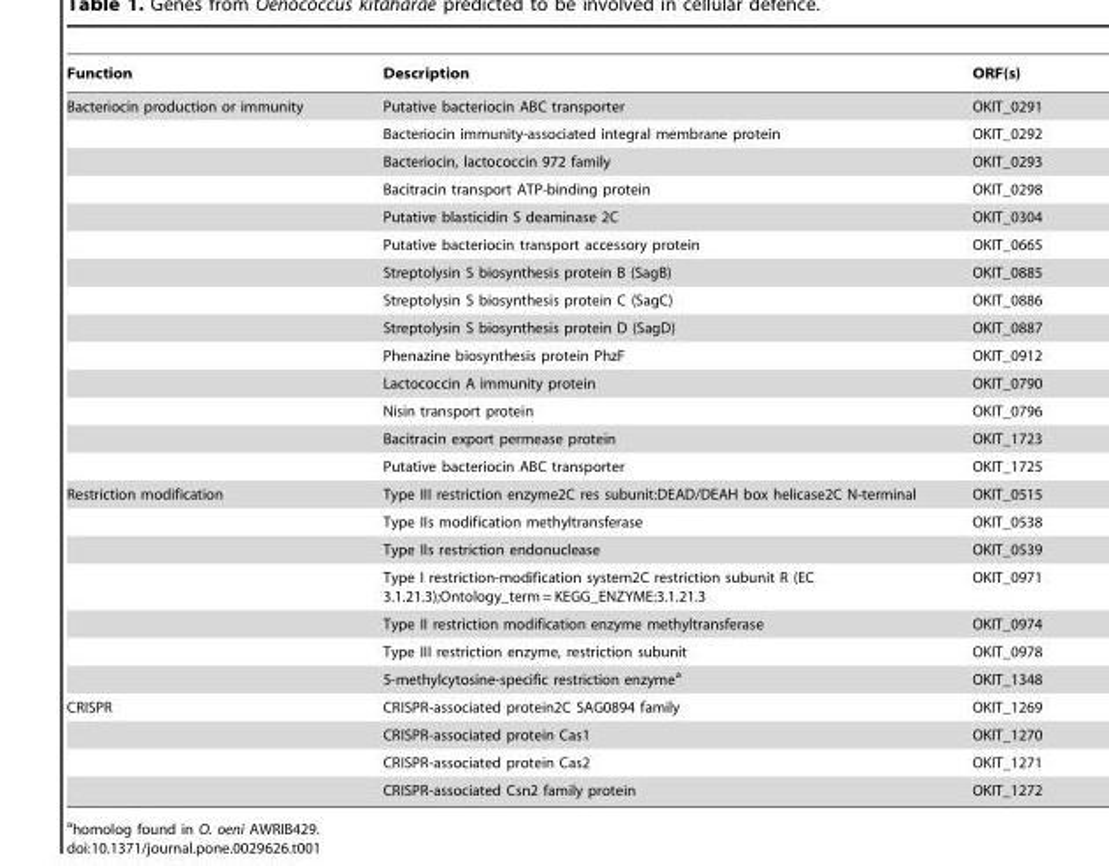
<table><thead><tr><td>Function</td><td>Description</td><td>ORF(s)</td></tr></thead><tbody><tr><td rowspan="14">Bacteriocin production or immunity</td><td>Putative bacteriocin ABC transporter</td><td>OKIT_0291</td></tr><tr><td>Bacteriocin immunity-associated integral membrane protein</td><td>OKIT_0292</td></tr><tr><td>Bacteriocin, lactococcin 972 family</td><td>OKIT_0293</td></tr><tr><td>Bacitracin transport ATP-binding protein</td><td>OKIT_0298</td></tr><tr><td>Putative blasticidin S deaminase 2C</td><td>OKIT_0304</td></tr><tr><td>Putative bacteriocin transport accessory protein</td><td>OKIT_0665</td></tr><tr><td>Streptolysin S biosynthesis protein B (SagB)</td><td>OKIT_0885</td></tr><tr><td>Streptolysin S biosynthesis protein C (SagC)</td><td>OKIT_0886</td></tr><tr><td>Streptolysin S biosynthesis protein D (SagD)</td><td>OKIT_0887</td></tr><tr><td>Phenazine biosynthesis protein PhzF</td><td>OKIT_0912</td></tr><tr><td>Lactococcin A immunity protein</td><td>OKIT_0790</td></tr><tr><td>Nisin transport protein</td><td>OKIT_0796</td></tr><tr><td>Bacitracin export permease protein</td><td>OKIT_1723</td></tr><tr><td>Putative bacteriocin ABC transporter</td><td>OKIT_1725</td></tr><tr><td rowspan="7">Restriction modification</td><td>Type III restriction enzyme2C res subunit:DEAD/DEAH box helicase2C N-terminal</td><td>OKIT_0515</td></tr><tr><td>Type IIs modification methyltransferase</td><td>OKIT_0538</td></tr><tr><td>Type IIs restriction endonuclease</td><td>OKIT_0539</td></tr><tr><td>Type I restriction-modification system2C restriction subunit R (EC 3.1.21.3);Ontology_term = KEGG_ENZYME:3.1.21.3</td><td>OKIT_0971</td></tr><tr><td>Type II restriction modification enzyme methyltransferase</td><td>OKIT_0974</td></tr><tr><td>Type III restriction enzyme, restriction subunit</td><td>OKIT_0978</td></tr><tr><td>5-methylcytosine-specific restriction enzyme<sup>a</sup></td><td>OKIT_1348</td></tr><tr><td rowspan="4">CRISPR</td><td>CRISPR-associated protein2C SAG0894 family</td><td>OKIT_1269</td></tr><tr><td>CRISPR-associated protein Cas1</td><td>OKIT_1270</td></tr><tr><td>CRISPR-associated protein Cas2</td><td>OKIT_1271</td></tr><tr><td>CRISPR-associated Csn2 family protein</td><td>OKIT_1272</td></tr></tbody></table>